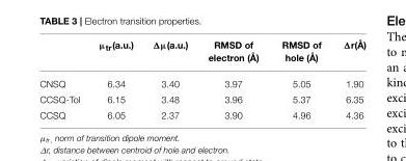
<table><thead><tr><td></td><td>µ<sub>tr</sub>(a.u.)</td><td>Δµ(a.u.)</td><td>RMSD of electron (Å)</td><td>RMSD of hole (Å)</td><td>Δr(Å)</td></tr></thead><tbody><tr><td>CNSQ</td><td>6.34</td><td>3.40</td><td>3.97</td><td>5.05</td><td>1.90</td></tr><tr><td>CCSQ-Tol</td><td>6.15</td><td>3.48</td><td>3.96</td><td>5.37</td><td>6.35</td></tr><tr><td>CCSQ</td><td>6.05</td><td>2.37</td><td>3.90</td><td>4.96</td><td>4.36</td></tr></tbody></table>